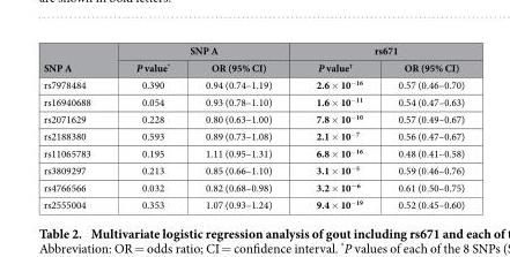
<table><thead><tr><td rowspan="2">SNP A</td><td colspan="2">SNP A</td><td colspan="2">rs671</td></tr><tr><td>P value*</td><td>OR (95% CI)</td><td>P value†</td><td>OR (95% CI)</td></tr></thead><tbody><tr><td>rs7978484</td><td>0.390</td><td>0.94 (0.74–1.19)</td><td>2.6 × 10<sup>−16</sup></td><td>0.57 (0.46–0.70)</td></tr><tr><td>rs16940688</td><td>0.054</td><td>0.93 (0.78–1.10)</td><td>1.6 × 10<sup>−11</sup></td><td>0.54 (0.47–0.63)</td></tr><tr><td>rs2071629</td><td>0.228</td><td>0.80 (0.63–1.00)</td><td>7.8 × 10<sup>−10</sup></td><td>0.57 (0.49–0.67)</td></tr><tr><td>rs2188380</td><td>0.593</td><td>0.89 (0.73–1.08)</td><td>2.1 × 10<sup>−7</sup></td><td>0.56 (0.47–0.67)</td></tr><tr><td>rs11065783</td><td>0.195</td><td>1.11 (0.95–1.31)</td><td>6.8 × 10<sup>−16</sup></td><td>0.48 (0.41–0.58)</td></tr><tr><td>rs3809297</td><td>0.213</td><td>0.85 (0.66–1.10)</td><td>3.1 × 10<sup>−5</sup></td><td>0.59 (0.46–0.76)</td></tr><tr><td>rs4766566</td><td>0.032</td><td>0.82 (0.68–0.98)</td><td>3.2 × 10<sup>−6</sup></td><td>0.61 (0.50–0.75)</td></tr><tr><td>rs2555004</td><td>0.353</td><td>1.07 (0.93–1.24)</td><td>9.4 × 10<sup>−19</sup></td><td>0.52 (0.45–0.60)</td></tr></tbody></table>